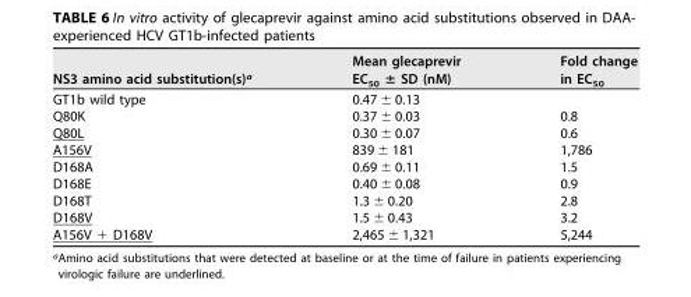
<table><thead><tr><td>NS3 amino acid substitution(s)<sup>a</sup></td><td>Mean glecaprevir EC<sub>50</sub> ± SD (nM)</td><td>Fold change in EC<sub>50</sub></td></tr></thead><tbody><tr><td>GT1b wild type</td><td>0.47 ± 0.13</td><td></td></tr><tr><td>Q80K</td><td>0.37 ± 0.03</td><td>0.8</td></tr><tr><td>Q80L</td><td>0.30 ± 0.07</td><td>0.6</td></tr><tr><td>A156V</td><td>839 ± 181</td><td>1,786</td></tr><tr><td>D168A</td><td>0.69 ± 0.11</td><td>1.5</td></tr><tr><td>D168E</td><td>0.40 ± 0.08</td><td>0.9</td></tr><tr><td>D168T</td><td>1.3 ± 0.20</td><td>2.8</td></tr><tr><td>D168V</td><td>1.5 ± 0.43</td><td>3.2</td></tr><tr><td>A156V + D168V</td><td>2,465 ± 1,321</td><td>5,244</td></tr></tbody></table>